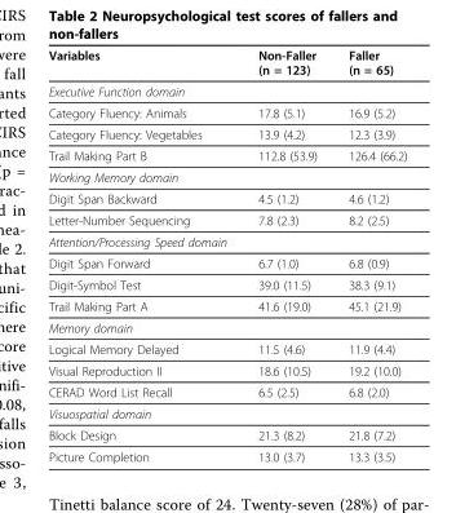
<table><thead><tr><td>Variables</td><td>Non-Faller (n = 123)</td><td>Faller (n = 65)</td></tr></thead><tbody><tr><td colspan="3">Executive Function domain</td></tr><tr><td>Category Fluency: Animals</td><td>17.8 (5.1)</td><td>16.9 (5.2)</td></tr><tr><td>Category Fluency: Vegetables</td><td>13.9 (4.2)</td><td>12.3 (3.9)</td></tr><tr><td>Trail Making Part B</td><td>112.8 (53.9)</td><td>126.4 (66.2)</td></tr><tr><td colspan="3">Working Memory domain</td></tr><tr><td>Digit Span Backward</td><td>4.5 (1.2)</td><td>4.6 (1.2)</td></tr><tr><td>Letter-Number Sequencing</td><td>7.8 (2.3)</td><td>8.2 (2.5)</td></tr><tr><td colspan="3">Attention/Processing Speed domain</td></tr><tr><td>Digit Span Forward</td><td>6.7 (1.0)</td><td>6.8 (0.9)</td></tr><tr><td>Digit-Symbol Test</td><td>39.0 (11.5)</td><td>38.3 (9.1)</td></tr><tr><td>Trail Making Part A</td><td>41.6 (19.0)</td><td>45.1 (21.9)</td></tr><tr><td colspan="3">Memory domain</td></tr><tr><td>Logical Memory Delayed</td><td>11.5 (4.6)</td><td>11.9 (4.4)</td></tr><tr><td>Visual Reproduction II</td><td>18.6 (10.5)</td><td>19.2 (10.0)</td></tr><tr><td>CERAD Word List Recall</td><td>6.5 (2.5)</td><td>6.8 (2.0)</td></tr><tr><td colspan="3">Visuospatial domain</td></tr><tr><td>Block Design</td><td>21.3 (8.2)</td><td>21.8 (7.2)</td></tr><tr><td>Picture Completion</td><td>13.0 (3.7)</td><td>13.3 (3.5)</td></tr></tbody></table>